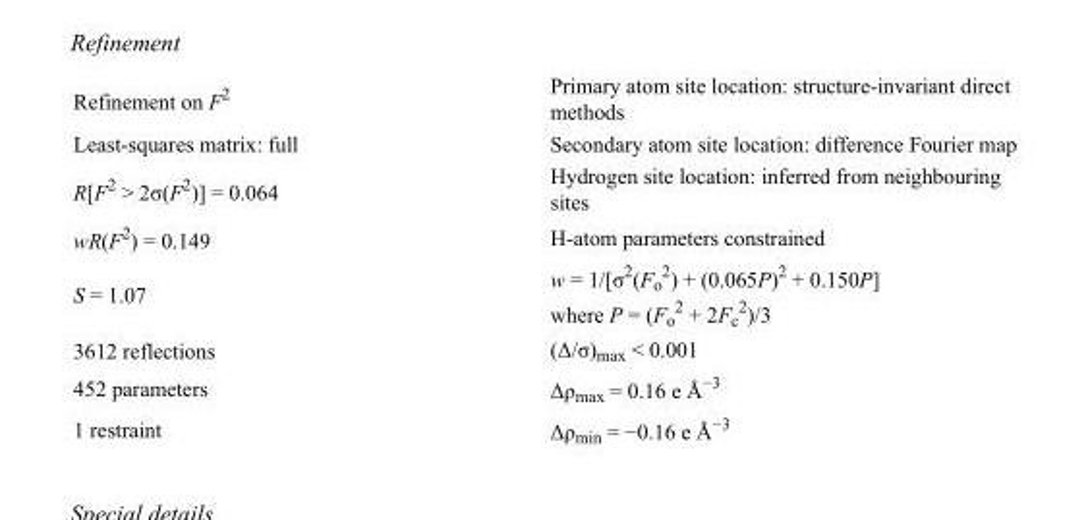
<table><tbody><tr><td>Refinement on F<sup>2</sup></td><td>Primary atom site location: structure-invariant direct methods</td></tr><tr><td>Least-squares matrix: full</td><td>Secondary atom site location: difference Fourier map</td></tr><tr><td>R[F<sup>2</sup> &gt; 2σ(F<sup>2</sup>)] = 0.064</td><td>Hydrogen site location: inferred from neighbouring sites</td></tr><tr><td>wR(F<sup>2</sup>) = 0.149</td><td>H-atom parameters constrained</td></tr><tr><td>S = 1.07</td><td>w = 1/[σ<sup>2</sup>(F<sub>o</sub> <sup>2</sup>) + (0.065P)<sup>2</sup> + 0.150P] where P = (F<sub>o</sub> <sup>2</sup> + 2F<sub>c</sub> <sup>2</sup>)/3</td></tr><tr><td>3612 reflections</td><td>(Δ/σ)<sub>max</sub> &lt; 0.001</td></tr><tr><td>452 parameters</td><td>Δρ<sub>max</sub> = 0.16 e Å<sup>−3</sup></td></tr><tr><td>1 restraint</td><td>Δρ<sub>min</sub> = −0.16 e Å<sup>−3</sup></td></tr></tbody></table>